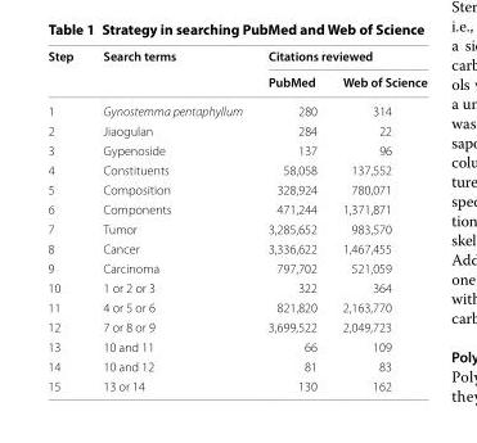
<table><thead><tr><td rowspan="2">Step</td><td rowspan="2">Search terms</td><td colspan="2">Citations reviewed</td></tr><tr><td>PubMed</td><td>Web of Science</td></tr></thead><tbody><tr><td>1</td><td>Gynostemma pentaphyllum</td><td>280</td><td>314</td></tr><tr><td>2</td><td>Jiaogulan</td><td>284</td><td>22</td></tr><tr><td>3</td><td>Gypenoside</td><td>137</td><td>96</td></tr><tr><td>4</td><td>Constituents</td><td>58,058</td><td>137,552</td></tr><tr><td>5</td><td>Composition</td><td>328,924</td><td>780,071</td></tr><tr><td>6</td><td>Components</td><td>471,244</td><td>1,371,871</td></tr><tr><td>7</td><td>Tumor</td><td>3,285,652</td><td>983,570</td></tr><tr><td>8</td><td>Cancer</td><td>3,336,622</td><td>1,467,455</td></tr><tr><td>9</td><td>Carcinoma</td><td>797,702</td><td>521,059</td></tr><tr><td>10</td><td>1 or 2 or 3</td><td>322</td><td>364</td></tr><tr><td>11</td><td>4 or 5 or 6</td><td>821,820</td><td>2,163,770</td></tr><tr><td>12</td><td>7 or 8 or 9</td><td>3,699,522</td><td>2,049,723</td></tr><tr><td>13</td><td>10 and 11</td><td>66</td><td>109</td></tr><tr><td>14</td><td>10 and 12</td><td>81</td><td>83</td></tr><tr><td>15</td><td>13 or 14</td><td>130</td><td>162</td></tr></tbody></table>